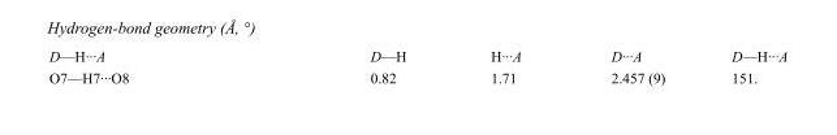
<table><tbody><tr><td>D—H···A</td><td>D—H</td><td>H···A</td><td>D···A</td><td>D—H···A</td></tr><tr><td>O7—H7···O8</td><td>0.82</td><td>1.71</td><td>2.457 (9)</td><td>151.</td></tr></tbody></table>